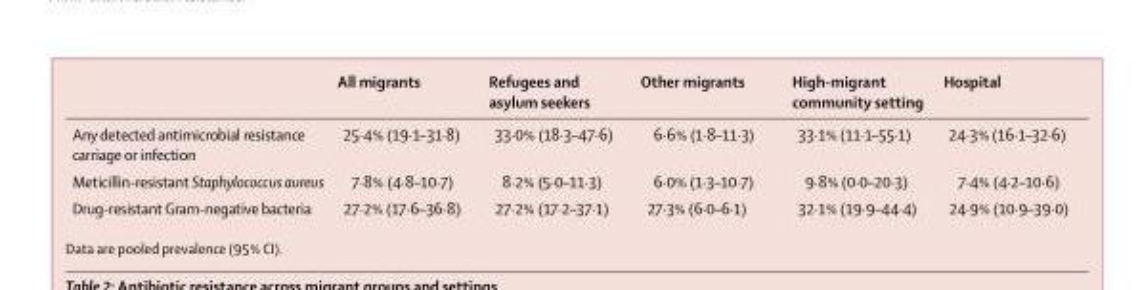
<table><thead><tr><td></td><td>All migrants</td><td>Refugees and asylum seekers</td><td>Other migrants</td><td>High-migrant community setting</td><td>Hospital</td></tr></thead><tbody><tr><td>Any detected antimicrobial resistance carriage or infection</td><td>25·4% (19·1–31·8)</td><td>33·0% (18·3–47·6)</td><td>6·6% (1·8–11·3)</td><td>33·1% (11·1–55·1)</td><td>24·3% (16·1–32·6)</td></tr><tr><td>Meticillin-resistant Staphylococcus aureus</td><td>7·8% (4·8–10·7)</td><td>8·2% (5·0–11·3)</td><td>6·0% (1·3–10·7)</td><td>9·8% (0·0–20·3)</td><td>7·4% (4·2–10·6)</td></tr><tr><td>Drug-resistant Gram-negative bacteria</td><td>27·2% (17·6–36·8)</td><td>27·2% (17·2–37·1)</td><td>27·3% (6·0–6·1)</td><td>32·1% (19·9–44·4)</td><td>24·9% (10·9–39·0)</td></tr></tbody></table>